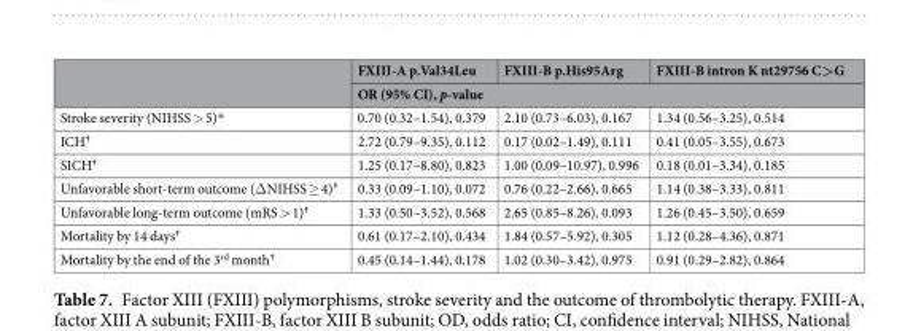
<table><thead><tr><td rowspan="2"></td><td>FXIII-A p.Val34Leu</td><td>FXIII-B p.His95Arg</td><td>FXIII-B intron K nt29756 C&gt;G</td></tr><tr><td colspan="3">OR (95% CI), p-value</td></tr></thead><tbody><tr><td>Stroke severity (NIHSS &gt; 5)*</td><td>0.70 (0.32–1.54), 0.379</td><td>2.10 (0.73–6.03), 0.167</td><td>1.34 (0.56–3.25), 0.514</td></tr><tr><td>ICH<sup>†</sup></td><td>2.72 (0.79–9.35), 0.112</td><td>0.17 (0.02–1.49), 0.111</td><td>0.41 (0.05–3.55), 0.673</td></tr><tr><td>SICH<sup>†</sup></td><td>1.25 (0.17–8.80), 0.823</td><td>1.00 (0.09–10.97), 0.996</td><td>0.18 (0.01–3.34), 0.185</td></tr><tr><td>Unfavorable short-term outcome (ΔNIHSS ≥ 4)<sup>†</sup></td><td>0.33 (0.09–1.10), 0.072</td><td>0.76 (0.22–2.66), 0.665</td><td>1.14 (0.38–3.33), 0.811</td></tr><tr><td>Unfavorable long-term outcome (mRS &gt; 1)<sup>†</sup></td><td>1.33 (0.50–3.52), 0.568</td><td>2.65 (0.85–8.26), 0.093</td><td>1.26 (0.45–3.50), 0.659</td></tr><tr><td>Mortality by 14 days<sup>†</sup></td><td>0.61 (0.17–2.10), 0.434</td><td>1.84 (0.57–5.92), 0.305</td><td>1.12 (0.28–4.36), 0.871</td></tr><tr><td>Mortality by the end of the 3<sup>rd</sup> month<sup>†</sup></td><td>0.45 (0.14–1.44), 0.178</td><td>1.02 (0.30–3.42), 0.975</td><td>0.91 (0.29–2.82), 0.864</td></tr></tbody></table>